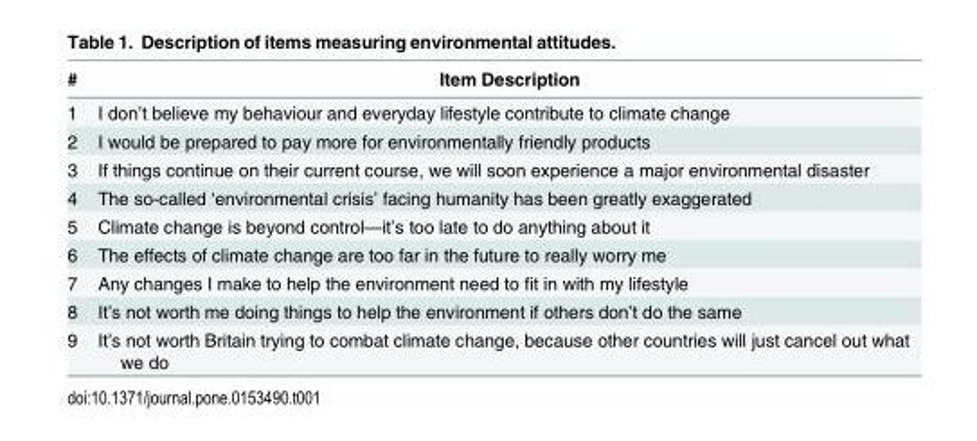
<table><thead><tr><td>#</td><td>Item Description</td></tr></thead><tbody><tr><td>1</td><td>I don’t believe my behaviour and everyday lifestyle contribute to climate change</td></tr><tr><td>2</td><td>I would be prepared to pay more for environmentally friendly products</td></tr><tr><td>3</td><td>If things continue on their current course, we will soon experience a major environmental disaster</td></tr><tr><td>4</td><td>The so-called ‘environmental crisis’ facing humanity has been greatly exaggerated</td></tr><tr><td>5</td><td>Climate change is beyond control—it’s too late to do anything about it</td></tr><tr><td>6</td><td>The effects of climate change are too far in the future to really worry me</td></tr><tr><td>7</td><td>Any changes I make to help the environment need to fit in with my lifestyle</td></tr><tr><td>8</td><td>It’s not worth me doing things to help the environment if others don’t do the same</td></tr><tr><td>9</td><td>It’s not worth Britain trying to combat climate change, because other countries will just cancel out what we do</td></tr></tbody></table>